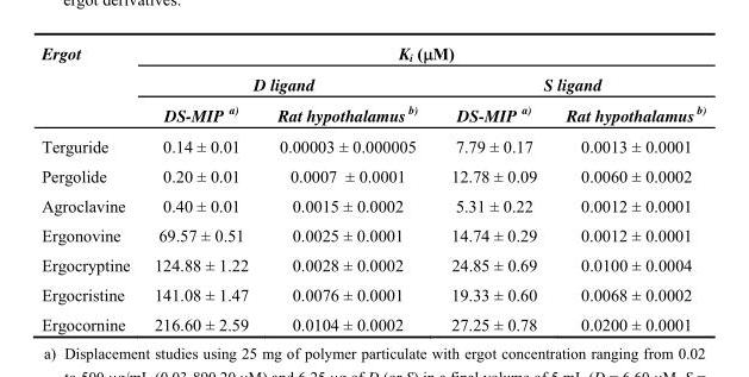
<table><thead><tr><td rowspan="3">Ergot</td><td colspan="4">K<sub>i</sub> (μM)</td></tr><tr><td colspan="2">D ligand</td><td colspan="2">S ligand</td></tr><tr><td>DS-MIP a)</td><td>Rat hypothalamus b)</td><td>DS-MIP a)</td><td>Rat hypothalamus b)</td></tr></thead><tbody><tr><td>Terguride</td><td>0.14 ± 0.01</td><td>0.00003 ± 0.000005</td><td>7.79 ± 0.17</td><td>0.0013 ± 0.0001</td></tr><tr><td>Pergolide</td><td>0.20 ± 0.01</td><td>0.0007 ± 0.0001</td><td>12.78 ± 0.09</td><td>0.0060 ± 0.0002</td></tr><tr><td>Agroclavine</td><td>0.40 ± 0.01</td><td>0.0015 ± 0.0002</td><td>5.31 ± 0.22</td><td>0.0012 ± 0.0001</td></tr><tr><td>Ergonovine</td><td>69.57 ± 0.51</td><td>0.0025 ± 0.0001</td><td>14.74 ± 0.29</td><td>0.0012 ± 0.0001</td></tr><tr><td>Ergocryptine</td><td>124.88 ± 1.22</td><td>0.0028 ± 0.0002</td><td>24.85 ± 0.69</td><td>0.0100 ± 0.0004</td></tr><tr><td>Ergocristine</td><td>141.08 ± 1.47</td><td>0.0076 ± 0.0001</td><td>19.33 ± 0.60</td><td>0.0068 ± 0.0002</td></tr><tr><td>Ergocornine</td><td>216.60 ± 2.59</td><td>0.0104 ± 0.0002</td><td>27.25 ± 0.78</td><td>0.0200 ± 0.0001</td></tr></tbody></table>